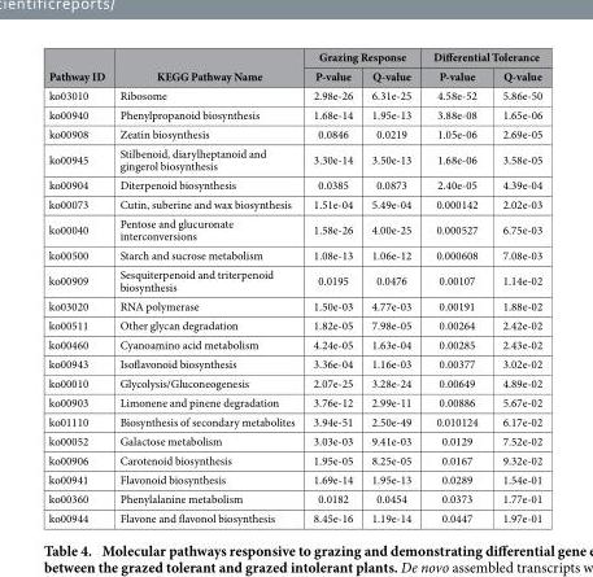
<table><thead><tr><td rowspan="2">Pathway ID</td><td rowspan="2">KEGG Pathway Name</td><td colspan="2">Grazing Response</td><td colspan="2">Differential Tolerance</td></tr><tr><td>P-value</td><td>Q-value</td><td>P-value</td><td>Q-value</td></tr></thead><tbody><tr><td>ko03010</td><td>Ribosome</td><td>2.98e-26</td><td>6.31e-25</td><td>4.58e-52</td><td>5.86e-50</td></tr><tr><td>ko00940</td><td>Phenylpropanoid biosynthesis</td><td>1.68e-14</td><td>1.95e-13</td><td>3.88e-08</td><td>1.65e-06</td></tr><tr><td>ko00908</td><td>Zeatin biosynthesis</td><td>0.0846</td><td>0.0219</td><td>1.05e-06</td><td>2.69e-05</td></tr><tr><td>ko00945</td><td>Stilbenoid, diarylheptanoid and gingerol biosynthesis</td><td>3.30e-14</td><td>3.50e-13</td><td>1.68e-06</td><td>3.58e-05</td></tr><tr><td>ko00904</td><td>Diterpenoid biosynthesis</td><td>0.0385</td><td>0.0873</td><td>2.40e-05</td><td>4.39e-04</td></tr><tr><td>ko00073</td><td>Cutin, suberine and wax biosynthesis</td><td>1.51e-04</td><td>5.49e-04</td><td>0.000142</td><td>2.02e-03</td></tr><tr><td>ko00040</td><td>Pentose and glucuronate interconversions</td><td>1.58e-26</td><td>4.00e-25</td><td>0.000527</td><td>6.75e-03</td></tr><tr><td>ko00500</td><td>Starch and sucrose metabolism</td><td>1.08e-13</td><td>1.06e-12</td><td>0.000608</td><td>7.08e-03</td></tr><tr><td>ko00909</td><td>Sesquiterpenoid and triterpenoid biosynthesis</td><td>0.0195</td><td>0.0476</td><td>0.00107</td><td>1.14e-02</td></tr><tr><td>ko03020</td><td>RNA polymerase</td><td>1.50e-03</td><td>4.77e-03</td><td>0.00191</td><td>1.88e-02</td></tr><tr><td>ko00511</td><td>Other glycan degradation</td><td>1.82e-05</td><td>7.98e-05</td><td>0.00264</td><td>2.42e-02</td></tr><tr><td>ko00460</td><td>Cyanoamino acid metabolism</td><td>4.24e-05</td><td>1.63e-04</td><td>0.00285</td><td>2.43e-02</td></tr><tr><td>ko00943</td><td>Isoflavonoid biosynthesis</td><td>3.36e-04</td><td>1.16e-03</td><td>0.00377</td><td>3.02e-02</td></tr><tr><td>ko00010</td><td>Glycolysis/Gluconeogenesis</td><td>2.07e-25</td><td>3.28e-24</td><td>0.00649</td><td>4.89e-02</td></tr><tr><td>ko00903</td><td>Limonene and pinene degradation</td><td>3.76e-12</td><td>2.99e-11</td><td>0.00886</td><td>5.67e-02</td></tr><tr><td>ko01110</td><td>Biosynthesis of secondary metabolites</td><td>3.94e-51</td><td>2.50e-49</td><td>0.010124</td><td>6.17e-02</td></tr><tr><td>ko00052</td><td>Galactose metabolism</td><td>3.03e-03</td><td>9.41e-03</td><td>0.0129</td><td>7.52e-02</td></tr><tr><td>ko00906</td><td>Carotenoid biosynthesis</td><td>1.95e-05</td><td>8.25e-05</td><td>0.0167</td><td>9.32e-02</td></tr><tr><td>ko00941</td><td>Flavonoid biosynthesis</td><td>1.69e-14</td><td>1.95e-13</td><td>0.0289</td><td>1.54e-01</td></tr><tr><td>ko00360</td><td>Phenylalanine metabolism</td><td>0.0182</td><td>0.0454</td><td>0.0373</td><td>1.77e-01</td></tr><tr><td>ko00944</td><td>Flavone and flavonol biosynthesis</td><td>8.45e-16</td><td>1.19e-14</td><td>0.0447</td><td>1.97e-01</td></tr></tbody></table>